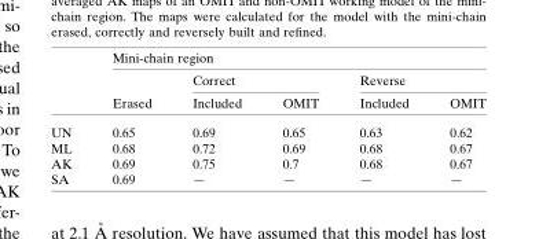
<table><thead><tr><td rowspan="3"></td><td colspan="5">Mini-chain region</td></tr><tr><td rowspan="2">Erased</td><td colspan="2">Correct</td><td colspan="2">Reverse</td></tr><tr><td>Included</td><td>OMIT</td><td>Included</td><td>OMIT</td></tr></thead><tbody><tr><td>UN</td><td>0.65</td><td>0.69</td><td>0.65</td><td>0.63</td><td>0.62</td></tr><tr><td>ML</td><td>0.68</td><td>0.72</td><td>0.69</td><td>0.68</td><td>0.67</td></tr><tr><td>AK</td><td>0.69</td><td>0.75</td><td>0.7</td><td>0.68</td><td>0.67</td></tr><tr><td>SA</td><td>0.69</td><td>—</td><td>—</td><td>—</td><td>—</td></tr></tbody></table>